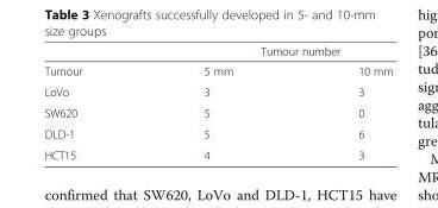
<table><thead><tr><td rowspan="2">Tumour</td><td colspan="2">Tumour number</td></tr><tr><td>5 mm</td><td>10 mm</td></tr></thead><tbody><tr><td>LoVo</td><td>3</td><td>3</td></tr><tr><td>SW620</td><td>5</td><td>0</td></tr><tr><td>DLD-1</td><td>5</td><td>6</td></tr><tr><td>HCT15</td><td>4</td><td>3</td></tr></tbody></table>